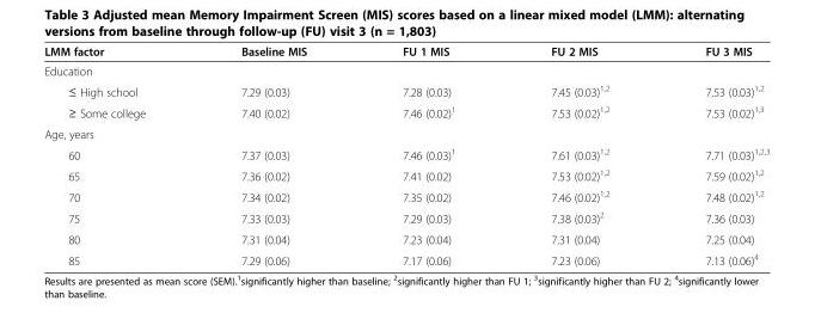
<table><thead><tr><td>LMM factor</td><td>Baseline MIS</td><td>FU 1 MIS</td><td>FU 2 MIS</td><td>FU 3 MIS</td></tr></thead><tbody><tr><td colspan="5">Education</td></tr><tr><td>≤ High school</td><td>7.29 (0.03)</td><td>7.28 (0.03)</td><td>7.45 (0.03)<sup>1,2</sup></td><td>7.53 (0.03)<sup>1,2</sup></td></tr><tr><td>≥ Some college</td><td>7.40 (0.02)</td><td>7.46 (0.02)<sup>1</sup></td><td>7.53 (0.02)<sup>1,2</sup></td><td>7.53 (0.02)<sup>1,3</sup></td></tr><tr><td colspan="5">Age, years</td></tr><tr><td>60</td><td>7.37 (0.03)</td><td>7.46 (0.03)<sup>1</sup></td><td>7.61 (0.03)<sup>1,2</sup></td><td>7.71 (0.03)<sup>1,2,3</sup></td></tr><tr><td>65</td><td>7.36 (0.02)</td><td>7.41 (0.02)</td><td>7.53 (0.02)<sup>1,2</sup></td><td>7.59 (0.02)<sup>1,2</sup></td></tr><tr><td>70</td><td>7.34 (0.02)</td><td>7.35 (0.02)</td><td>7.46 (0.02)<sup>1,2</sup></td><td>7.48 (0.02)<sup>1,2</sup></td></tr><tr><td>75</td><td>7.33 (0.03)</td><td>7.29 (0.03)</td><td>7.38 (0.03)<sup>2</sup></td><td>7.36 (0.03)</td></tr><tr><td>80</td><td>7.31 (0.04)</td><td>7.23 (0.04)</td><td>7.31 (0.04)</td><td>7.25 (0.04)</td></tr><tr><td>85</td><td>7.29 (0.06)</td><td>7.17 (0.06)</td><td>7.23 (0.06)</td><td>7.13 (0.06)<sup>4</sup></td></tr></tbody></table>